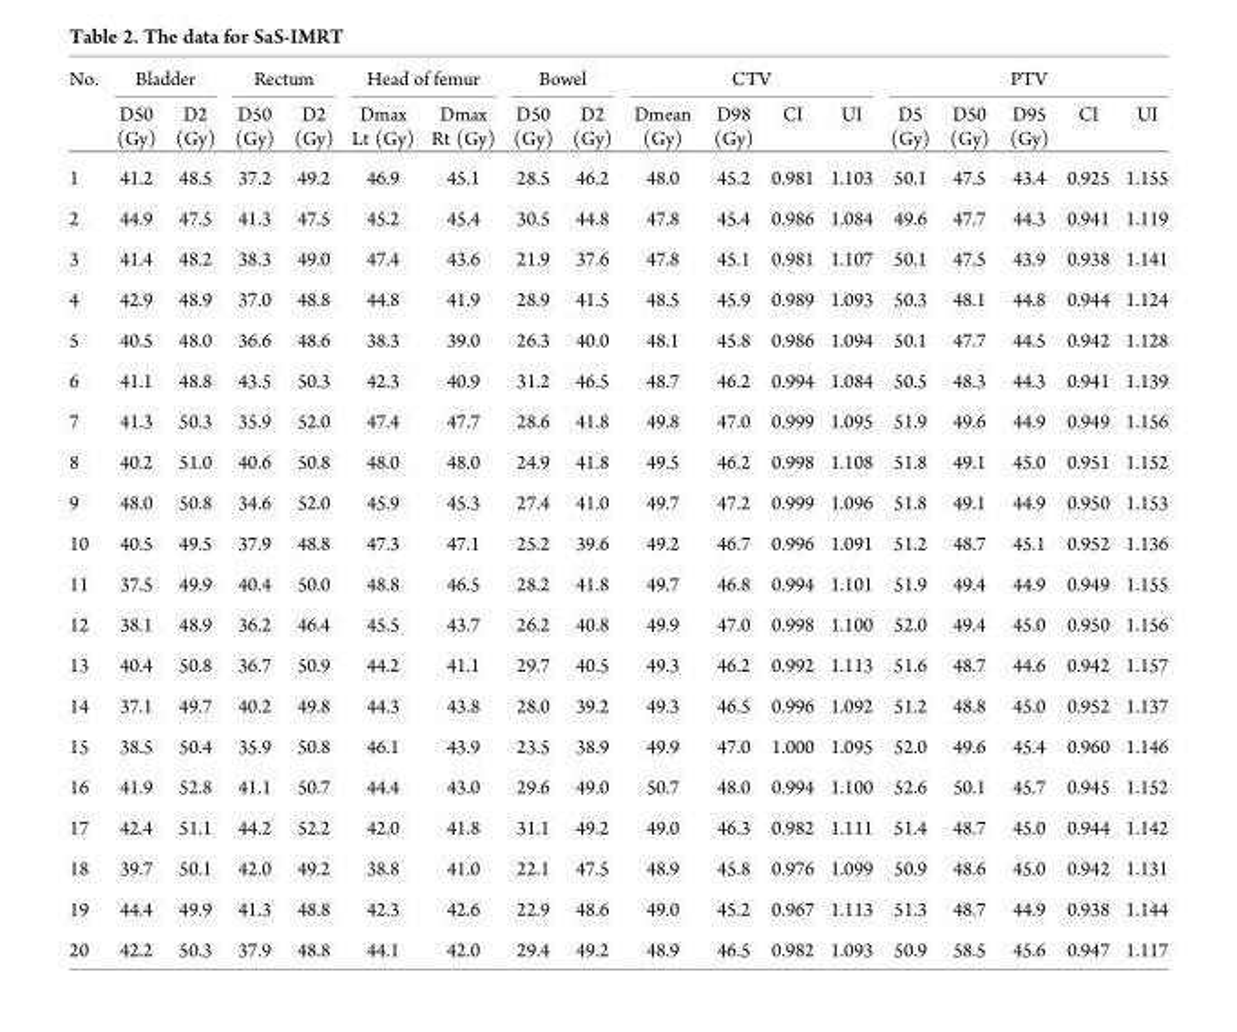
<table><thead><tr><td rowspan="2">No.</td><td colspan="2">Bladder</td><td colspan="2">Rectum</td><td colspan="2">Head of femur</td><td colspan="2">Bowel</td><td colspan="4">CTV</td><td colspan="5">PTV</td></tr><tr><td>D50 (Gy)</td><td>D2 (Gy)</td><td>D50 (Gy)</td><td>D2 (Gy)</td><td>Dmax Lt (Gy)</td><td>Dmax Rt (Gy)</td><td>D50 (Gy)</td><td>D2 (Gy)</td><td>Dmean (Gy)</td><td>D98 (Gy)</td><td>CI</td><td>UI</td><td>D5 (Gy)</td><td>D50 (Gy)</td><td>D95 (Gy)</td><td>CI</td><td>UI</td></tr></thead><tbody><tr><td>1</td><td>41.2</td><td>48.5</td><td>37.2</td><td>49.2</td><td>46.9</td><td>45.1</td><td>28.5</td><td>46.2</td><td>48.0</td><td>45.2</td><td>0.981</td><td>1.103</td><td>50.1</td><td>47.5</td><td>43.4</td><td>0.925</td><td>1.155</td></tr><tr><td>2</td><td>44.9</td><td>47.5</td><td>41.3</td><td>47.5</td><td>45.2</td><td>45.4</td><td>30.5</td><td>44.8</td><td>47.8</td><td>45.4</td><td>0.986</td><td>1.084</td><td>49.6</td><td>47.7</td><td>44.3</td><td>0.941</td><td>1.119</td></tr><tr><td>3</td><td>41.4</td><td>48.2</td><td>38.3</td><td>49.0</td><td>47.4</td><td>43.6</td><td>21.9</td><td>37.6</td><td>47.8</td><td>45.1</td><td>0.981</td><td>1.107</td><td>50.1</td><td>47.5</td><td>43.9</td><td>0.938</td><td>1.141</td></tr><tr><td>4</td><td>42.9</td><td>48.9</td><td>37.0</td><td>48.8</td><td>44.8</td><td>41.9</td><td>28.9</td><td>41.5</td><td>48.5</td><td>45.9</td><td>0.989</td><td>1.093</td><td>50.3</td><td>48.1</td><td>44.8</td><td>0.944</td><td>1.124</td></tr><tr><td>5</td><td>40.5</td><td>48.0</td><td>36.6</td><td>48.6</td><td>38.3</td><td>39.0</td><td>26.3</td><td>40.0</td><td>48.1</td><td>45.8</td><td>0.986</td><td>1.094</td><td>50.1</td><td>47.7</td><td>44.5</td><td>0.942</td><td>1.128</td></tr><tr><td>6</td><td>41.1</td><td>48.8</td><td>43.5</td><td>50.3</td><td>42.3</td><td>40.9</td><td>31.2</td><td>46.5</td><td>48.7</td><td>46.2</td><td>0.994</td><td>1.084</td><td>50.5</td><td>48.3</td><td>44.3</td><td>0.941</td><td>1.139</td></tr><tr><td>7</td><td>41.3</td><td>50.3</td><td>35.9</td><td>52.0</td><td>47.4</td><td>47.7</td><td>28.6</td><td>41.8</td><td>49.8</td><td>47.0</td><td>0.999</td><td>1.095</td><td>51.9</td><td>49.6</td><td>44.9</td><td>0.949</td><td>1.156</td></tr><tr><td>8</td><td>40.2</td><td>51.0</td><td>40.6</td><td>50.8</td><td>48.0</td><td>48.0</td><td>24.9</td><td>41.8</td><td>49.5</td><td>46.2</td><td>0.998</td><td>1.108</td><td>51.8</td><td>49.1</td><td>45.0</td><td>0.951</td><td>1.152</td></tr><tr><td>9</td><td>48.0</td><td>50.8</td><td>34.6</td><td>52.0</td><td>45.9</td><td>45.3</td><td>27.4</td><td>41.0</td><td>49.7</td><td>47.2</td><td>0.999</td><td>1.096</td><td>51.8</td><td>49.1</td><td>44.9</td><td>0.950</td><td>1.153</td></tr><tr><td>10</td><td>40.5</td><td>49.5</td><td>37.9</td><td>48.8</td><td>47.3</td><td>47.1</td><td>25.2</td><td>39.6</td><td>49.2</td><td>46.7</td><td>0.996</td><td>1.091</td><td>51.2</td><td>48.7</td><td>45.1</td><td>0.952</td><td>1.136</td></tr><tr><td>11</td><td>37.5</td><td>49.9</td><td>40.4</td><td>50.0</td><td>48.8</td><td>46.5</td><td>28.2</td><td>41.8</td><td>49.7</td><td>46.8</td><td>0.994</td><td>1.101</td><td>51.9</td><td>49.4</td><td>44.9</td><td>0.949</td><td>1.155</td></tr><tr><td>12</td><td>38.1</td><td>48.9</td><td>36.2</td><td>46.4</td><td>45.5</td><td>43.7</td><td>26.2</td><td>40.8</td><td>49.9</td><td>47.0</td><td>0.998</td><td>1.100</td><td>52.0</td><td>49.4</td><td>45.0</td><td>0.950</td><td>1.156</td></tr><tr><td>13</td><td>40.4</td><td>50.8</td><td>36.7</td><td>50.9</td><td>44.2</td><td>41.1</td><td>29.7</td><td>40.5</td><td>49.3</td><td>46.2</td><td>0.992</td><td>1.113</td><td>51.6</td><td>48.7</td><td>44.6</td><td>0.942</td><td>1.157</td></tr><tr><td>14</td><td>37.1</td><td>49.7</td><td>40.2</td><td>49.8</td><td>44.3</td><td>43.8</td><td>28.0</td><td>39.2</td><td>49.3</td><td>46.5</td><td>0.996</td><td>1.092</td><td>51.2</td><td>48.8</td><td>45.0</td><td>0.952</td><td>1.137</td></tr><tr><td>15</td><td>38.5</td><td>50.4</td><td>35.9</td><td>50.8</td><td>46.1</td><td>43.9</td><td>23.5</td><td>38.9</td><td>49.9</td><td>47.0</td><td>1.000</td><td>1.095</td><td>52.0</td><td>49.6</td><td>45.4</td><td>0.960</td><td>1.146</td></tr><tr><td>16</td><td>41.9</td><td>52.8</td><td>41.1</td><td>50.7</td><td>44.4</td><td>43.0</td><td>29.6</td><td>49.0</td><td>50.7</td><td>48.0</td><td>0.994</td><td>1.100</td><td>52.6</td><td>50.1</td><td>45.7</td><td>0.945</td><td>1.152</td></tr><tr><td>17</td><td>42.4</td><td>51.1</td><td>44.2</td><td>52.2</td><td>42.0</td><td>41.8</td><td>31.1</td><td>49.2</td><td>49.0</td><td>46.3</td><td>0.982</td><td>1.111</td><td>51.4</td><td>48.7</td><td>45.0</td><td>0.944</td><td>1.142</td></tr><tr><td>18</td><td>39.7</td><td>50.1</td><td>42.0</td><td>49.2</td><td>38.8</td><td>41.0</td><td>22.1</td><td>47.5</td><td>48.9</td><td>45.8</td><td>0.976</td><td>1.099</td><td>50.9</td><td>48.6</td><td>45.0</td><td>0.942</td><td>1.131</td></tr><tr><td>19</td><td>44.4</td><td>49.9</td><td>41.3</td><td>48.8</td><td>42.3</td><td>42.6</td><td>22.9</td><td>48.6</td><td>49.0</td><td>45.2</td><td>0.967</td><td>1.113</td><td>51.3</td><td>48.7</td><td>44.9</td><td>0.938</td><td>1.144</td></tr><tr><td>20</td><td>42.2</td><td>50.3</td><td>37.9</td><td>48.8</td><td>44.1</td><td>42.0</td><td>29.4</td><td>49.2</td><td>48.9</td><td>46.5</td><td>0.982</td><td>1.093</td><td>50.9</td><td>58.5</td><td>45.6</td><td>0.947</td><td>1.117</td></tr></tbody></table>